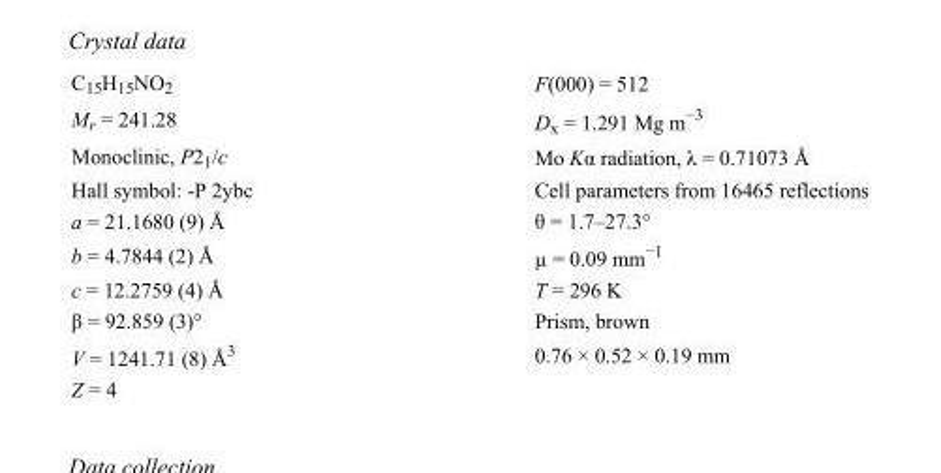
<table><tbody><tr><td>C<sub>15</sub>H<sub>15</sub>NO<sub>2</sub></td><td>F(000) = 512</td></tr><tr><td>M<sub>r</sub> = 241.28</td><td>D<sub>x</sub> = 1.291 Mg m<sup>−3</sup></td></tr><tr><td>Monoclinic, P2<sub>1</sub>/c</td><td>Mo Kα radiation, λ = 0.71073 Å</td></tr><tr><td>Hall symbol: -P 2ybc</td><td>Cell parameters from 16465 reflections</td></tr><tr><td>a = 21.1680 (9) Å</td><td>θ = 1.7–27.3°</td></tr><tr><td>b = 4.7844 (2) Å</td><td>µ = 0.09 mm<sup>−1</sup></td></tr><tr><td>c = 12.2759 (4) Å</td><td>T = 296 K</td></tr><tr><td>β = 92.859 (3)°</td><td>Prism, brown</td></tr><tr><td>V = 1241.71 (8) Å<sup>3</sup></td><td>0.76 × 0.52 × 0.19 mm</td></tr><tr><td>Z = 4</td><td></td></tr></tbody></table>